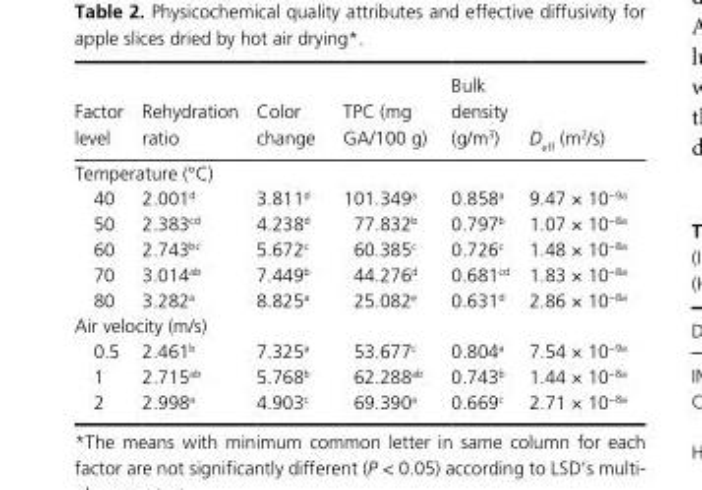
<table><thead><tr><td>Factor level</td><td>Rehydration ratio</td><td>Color change</td><td>TPC (mg GA/100 g)</td><td>Bulk density (g/m<sup>3</sup>)</td><td>D<sub>eff</sub> (m<sup>2</sup>/s)</td></tr></thead><tbody><tr><td colspan="6">Temperature (°C)</td></tr><tr><td>40</td><td>2.001<sup>d</sup></td><td>3.811<sup>d</sup></td><td>101.349<sup>a</sup></td><td>0.858<sup>a</sup></td><td>9.47 × 10<sup>−9a</sup></td></tr><tr><td>50</td><td>2.383<sup>cd</sup></td><td>4.238<sup>d</sup></td><td>77.832<sup>b</sup></td><td>0.797<sup>b</sup></td><td>1.07 × 10<sup>−8a</sup></td></tr><tr><td>60</td><td>2.743<sup>bc</sup></td><td>5.672<sup>c</sup></td><td>60.385<sup>c</sup></td><td>0.726<sup>c</sup></td><td>1.48 × 10<sup>−8a</sup></td></tr><tr><td>70</td><td>3.014<sup>ab</sup></td><td>7.449<sup>b</sup></td><td>44.276<sup>d</sup></td><td>0.681<sup>cd</sup></td><td>1.83 × 10<sup>−8a</sup></td></tr><tr><td>80</td><td>3.282<sup>a</sup></td><td>8.825<sup>a</sup></td><td>25.082<sup>e</sup></td><td>0.631<sup>d</sup></td><td>2.86 × 10<sup>−8a</sup></td></tr><tr><td colspan="6">Air velocity (m/s)</td></tr><tr><td>0.5</td><td>2.461<sup>b</sup></td><td>7.325<sup>a</sup></td><td>53.677<sup>c</sup></td><td>0.804<sup>a</sup></td><td>7.54 × 10<sup>−9a</sup></td></tr><tr><td>1</td><td>2.715<sup>ab</sup></td><td>5.768<sup>b</sup></td><td>62.288<sup>ab</sup></td><td>0.743<sup>b</sup></td><td>1.44 × 10<sup>−8a</sup></td></tr><tr><td>2</td><td>2.998<sup>a</sup></td><td>4.903<sup>c</sup></td><td>69.390<sup>a</sup></td><td>0.669<sup>c</sup></td><td>2.71 × 10<sup>−8a</sup></td></tr></tbody></table>